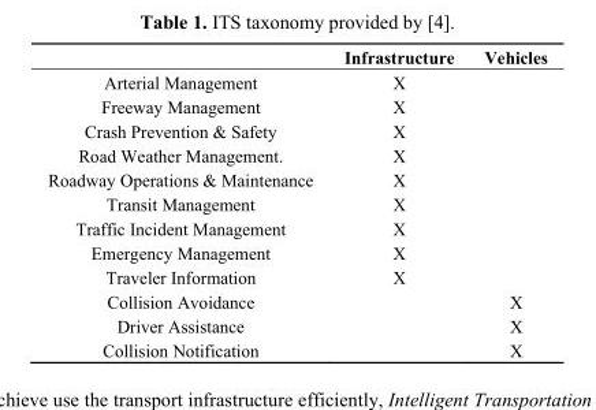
<table><thead><tr><td></td><td>Infrastructure</td><td>Vehicles</td></tr></thead><tbody><tr><td>Arterial Management</td><td>X</td><td></td></tr><tr><td>Freeway Management</td><td>X</td><td></td></tr><tr><td>Crash Prevention &amp; Safety</td><td>X</td><td></td></tr><tr><td>Road Weather Management.</td><td>X</td><td></td></tr><tr><td>Roadway Operations &amp; Maintenance</td><td>X</td><td></td></tr><tr><td>Transit Management</td><td>X</td><td></td></tr><tr><td>Traffic Incident Management</td><td>X</td><td></td></tr><tr><td>Emergency Management</td><td>X</td><td></td></tr><tr><td>Traveler Information</td><td>X</td><td></td></tr><tr><td>Collision Avoidance</td><td></td><td>X</td></tr><tr><td>Driver Assistance</td><td></td><td>X</td></tr><tr><td>Collision Notification</td><td></td><td>X</td></tr></tbody></table>